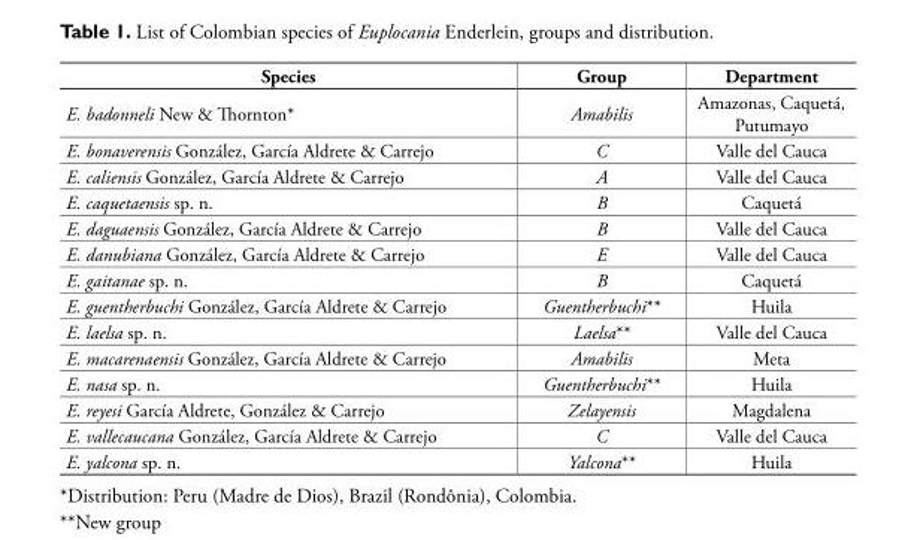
<table><thead><tr><td>Species</td><td>Group</td><td>Department</td></tr></thead><tbody><tr><td>E. badonneli New &amp; Thornton*</td><td>Amabilis</td><td>Amazonas, Caquetá, Putumayo</td></tr><tr><td>E. bonaverensis González, García Aldrete &amp; Carrejo</td><td>C</td><td>Valle del Cauca</td></tr><tr><td>E. caliensis González, García Aldrete &amp; Carrejo</td><td>A</td><td>Valle del Cauca</td></tr><tr><td>E. caquetaensis sp. n.</td><td>B</td><td>Caquetá</td></tr><tr><td>E. daguaensis González, García Aldrete &amp; Carrejo</td><td>B</td><td>Valle del Cauca</td></tr><tr><td>E. danubiana González, García Aldrete &amp; Carrejo</td><td>E</td><td>Valle del Cauca</td></tr><tr><td>E. gaitanae sp. n.</td><td>B</td><td>Caquetá</td></tr><tr><td>E. guentherbuchi González, García Aldrete &amp; Carrejo</td><td>Guentherbuchi**</td><td>Huila</td></tr><tr><td>E. laelsa sp. n.</td><td>Laelsa**</td><td>Valle del Cauca</td></tr><tr><td>E. macarenaensis González, García Aldrete &amp; Carrejo</td><td>Amabilis</td><td>Meta</td></tr><tr><td>E. nasa sp. n.</td><td>Guentherbuchi**</td><td>Huila</td></tr><tr><td>E. reyesi García Aldrete, González &amp; Carrejo</td><td>Zelayensis</td><td>Magdalena</td></tr><tr><td>E. vallecaucana González, García Aldrete &amp; Carrejo</td><td>C</td><td>Valle del Cauca</td></tr><tr><td>E. yalcona sp. n.</td><td>Yalcona**</td><td>Huila</td></tr></tbody></table>